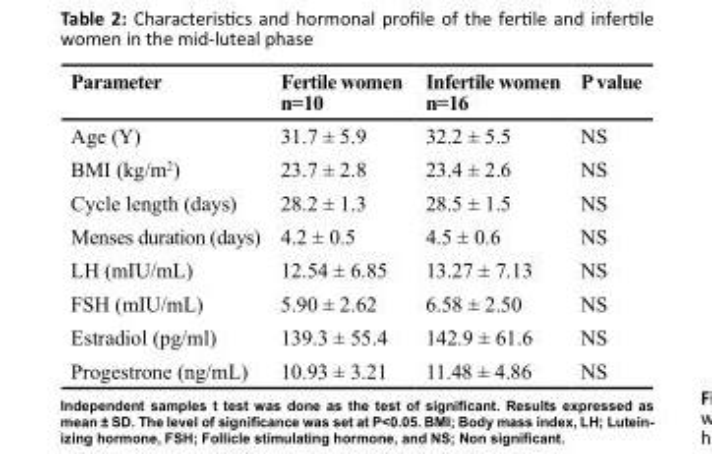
<table><thead><tr><td>Parameter</td><td>Fertile women n=10</td><td>Infertile women n=16</td><td>P value</td></tr></thead><tbody><tr><td>Age (Y)</td><td>31.7 ± 5.9</td><td>32.2 ± 5.5</td><td>NS</td></tr><tr><td>BMI (kg/m2)</td><td>23.7 ± 2.8</td><td>23.4 ± 2.6</td><td>NS</td></tr><tr><td>Cycle length (days)</td><td>28.2 ± 1.3</td><td>28.5 ± 1.5</td><td>NS</td></tr><tr><td>Menses duration (days)</td><td>4.2 ± 0.5</td><td>4.5 ± 0.6</td><td>NS</td></tr><tr><td>LH (mIU/mL)</td><td>12.54 ± 6.85</td><td>13.27 ± 7.13</td><td>NS</td></tr><tr><td>FSH (mIU/mL)</td><td>5.90 ± 2.62</td><td>6.58 ± 2.50</td><td>NS</td></tr><tr><td>Estradiol (pg/ml)</td><td>139.3 ± 55.4</td><td>142.9 ± 61.6</td><td>NS</td></tr><tr><td>Progestrone (ng/mL)</td><td>10.93 ± 3.21</td><td>11.48 ± 4.86</td><td>NS</td></tr></tbody></table>